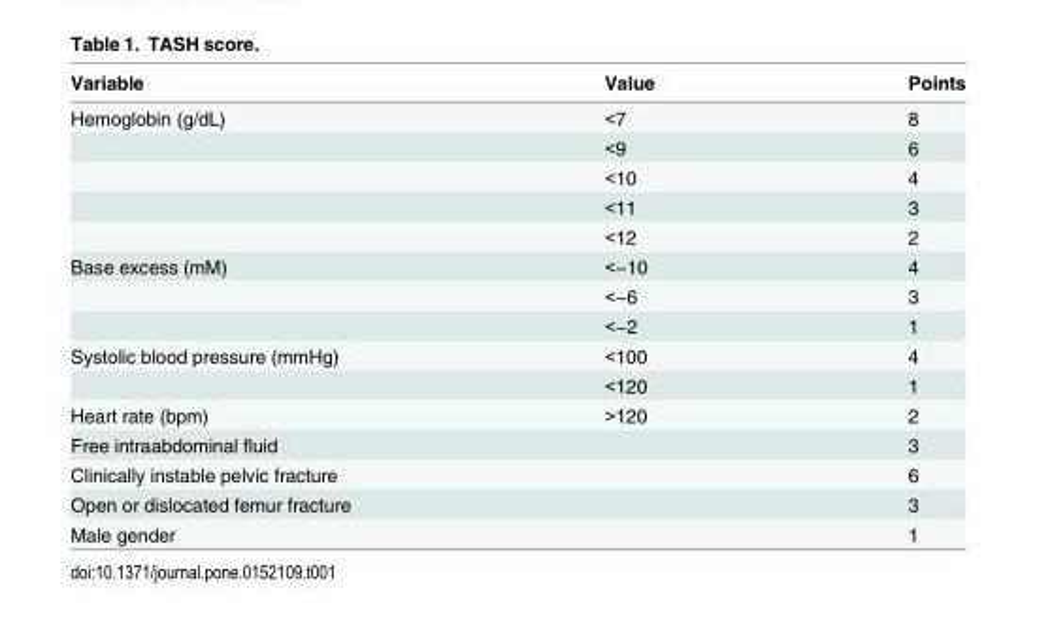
<table><thead><tr><td>Variable</td><td>Value</td><td>Points</td></tr></thead><tbody><tr><td rowspan="5">Hemoglobin (g/dL)</td><td>&lt;7</td><td>8</td></tr><tr><td>&lt;9</td><td>6</td></tr><tr><td>&lt;10</td><td>4</td></tr><tr><td>&lt;11</td><td>3</td></tr><tr><td>&lt;12</td><td>2</td></tr><tr><td rowspan="3">Base excess (mM)</td><td>&lt;−10</td><td>4</td></tr><tr><td>&lt;−6</td><td>3</td></tr><tr><td>&lt;−2</td><td>1</td></tr><tr><td rowspan="2">Systolic blood pressure (mmHg)</td><td>&lt;100</td><td>4</td></tr><tr><td>&lt;120</td><td>1</td></tr><tr><td>Heart rate (bpm)</td><td>&gt;120</td><td>2</td></tr><tr><td>Free intraabdominal fluid</td><td></td><td>3</td></tr><tr><td>Clinically instable pelvic fracture</td><td></td><td>6</td></tr><tr><td>Open or dislocated femur fracture</td><td></td><td>3</td></tr><tr><td>Male gender</td><td></td><td>1</td></tr></tbody></table>